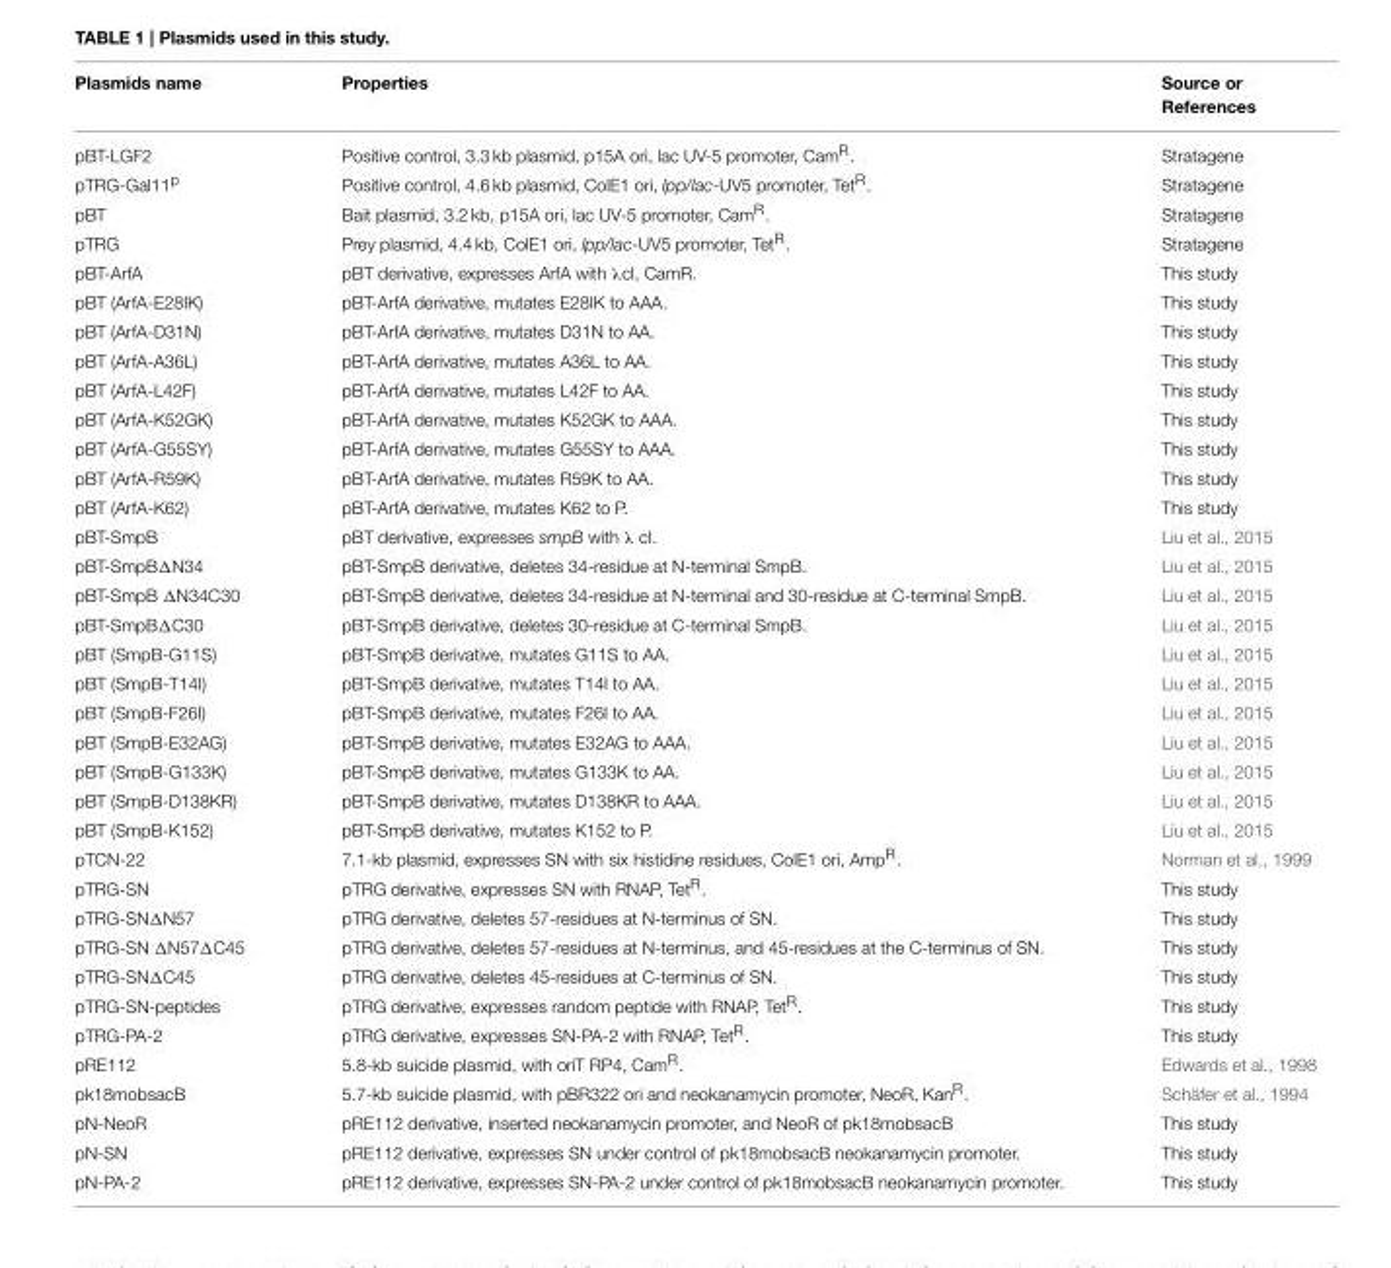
<table><thead><tr><td>Plasmids name</td><td>Properties</td><td>Source or References</td></tr></thead><tbody><tr><td>pBT-LGF2</td><td>Positive control, 3.3 kb plasmid, p15A ori, lac UV-5 promoter, Cam<sup>R</sup>.</td><td>Stratagene</td></tr><tr><td>pTRG-Gal11<sup>p</sup></td><td>Positive control, 4.6 kb plasmid, ColE1 ori, lpp/lac-UV5 promoter, Tet<sup>R</sup>.</td><td>Stratagene</td></tr><tr><td>pBT</td><td>Bait plasmid, 3.2 kb, p15A ori, lac UV-5 promoter, Cam<sup>R</sup>.</td><td>Stratagene</td></tr><tr><td>pTRG</td><td>Prey plasmid, 4.4 kb, ColE1 ori, lpp/lac-UV5 promoter, Tet<sup>R</sup>.</td><td>Stratagene</td></tr><tr><td>pBT-ArfA</td><td>pBT derivative, expresses ArfA with λcI, CamR.</td><td>This study</td></tr><tr><td>pBT (ArfA-E28IK)</td><td>pBT-ArfA derivative, mutates E28IK to AAA.</td><td>This study</td></tr><tr><td>pBT (ArfA-D31N)</td><td>pBT-ArfA derivative, mutates D31N to AA.</td><td>This study</td></tr><tr><td>pBT (ArfA-A36L)</td><td>pBT-ArfA derivative, mutates A36L to AA.</td><td>This study</td></tr><tr><td>pBT (ArfA-L42F)</td><td>pBT-ArfA derivative, mutates L42F to AA.</td><td>This study</td></tr><tr><td>pBT (ArfA-K52GK)</td><td>pBT-ArfA derivative, mutates K52GK to AAA.</td><td>This study</td></tr><tr><td>pBT (ArfA-G55SY)</td><td>pBT-ArfA derivative, mutates G55SY to AAA.</td><td>This study</td></tr><tr><td>pBT (ArfA-R59K)</td><td>pBT-ArfA derivative, mutates R59K to AA.</td><td>This study</td></tr><tr><td>pBT (ArfA-K62)</td><td>pBT-ArfA derivative, mutates K62 to P.</td><td>This study</td></tr><tr><td>pBT-SmpB</td><td>pBT derivative, expresses smpB with λ cI.</td><td>Liu et al., 2015</td></tr><tr><td>pBT-SmpBΔN34</td><td>pBT-SmpB derivative, deletes 34-residue at N-terminal SmpB.</td><td>Liu et al., 2015</td></tr><tr><td>pBT-SmpB ΔN34C30</td><td>pBT-SmpB derivative, deletes 34-residue at N-terminal and 30-residue at C-terminal SmpB.</td><td>Liu et al., 2015</td></tr><tr><td>pBT-SmpBΔC30</td><td>pBT-SmpB derivative, deletes 30-residue at C-terminal SmpB.</td><td>Liu et al., 2015</td></tr><tr><td>pBT (SmpB-G11S)</td><td>pBT-SmpB derivative, mutates G11S to AA.</td><td>Liu et al., 2015</td></tr><tr><td>pBT (SmpB-T14I)</td><td>pBT-SmpB derivative, mutates T14I to AA.</td><td>Liu et al., 2015</td></tr><tr><td>pBT (SmpB-F26I)</td><td>pBT-SmpB derivative, mutates F26I to AA.</td><td>Liu et al., 2015</td></tr><tr><td>pBT (SmpB-E32AG)</td><td>pBT-SmpB derivative, mutates E32AG to AAA.</td><td>Liu et al., 2015</td></tr><tr><td>pBT (SmpB-G133K)</td><td>pBT-SmpB derivative, mutates G133K to AA.</td><td>Liu et al., 2015</td></tr><tr><td>pBT (SmpB-D138KR)</td><td>pBT-SmpB derivative, mutates D138KR to AAA.</td><td>Liu et al., 2015</td></tr><tr><td>pBT (SmpB-K152)</td><td>pBT-SmpB derivative, mutates K152 to P.</td><td>Liu et al., 2015</td></tr><tr><td>pTCN-22</td><td>7.1-kb plasmid, expresses SN with six histidine residues, ColE1 ori, Amp<sup>R</sup>.</td><td>Norman et al., 1999</td></tr><tr><td>pTRG-SN</td><td>pTRG derivative, expresses SN with RNAP, Tet<sup>R</sup>.</td><td>This study</td></tr><tr><td>pTRG-SNΔN57</td><td>pTRG derivative, deletes 57-residues at N-terminus of SN.</td><td>This study</td></tr><tr><td>pTRG-SN ΔN57ΔC45</td><td>pTRG derivative, deletes 57-residues at N-terminus, and 45-residues at the C-terminus of SN.</td><td>This study</td></tr><tr><td>pTRG-SNΔC45</td><td>pTRG derivative, deletes 45-residues at C-terminus of SN.</td><td>This study</td></tr><tr><td>pTRG-SN-peptides</td><td>pTRG derivative, expresses random peptide with RNAP, Tet<sup>R</sup>.</td><td>This study</td></tr><tr><td>pTRG-PA-2</td><td>pTRG derivative, expresses SN-PA-2 with RNAP, Tet<sup>R</sup>.</td><td>This study</td></tr><tr><td>pRE112</td><td>5.8-kb suicide plasmid, with oriT RP4, Cam<sup>R</sup>.</td><td>Edwards et al., 1998</td></tr><tr><td>pk18mobsacB</td><td>5.7-kb suicide plasmid, with pBR322 ori and neokanamycin promoter, NeoR, Kan<sup>R</sup>.</td><td>Schäfer et al., 1994</td></tr><tr><td>pN-NeoR</td><td>pRE112 derivative, inserted neokanamycin promoter, and NeoR of pk18mobsacB</td><td>This study</td></tr><tr><td>pN-SN</td><td>pRE112 derivative, expresses SN under control of pk18mobsacB neokanamycin promoter.</td><td>This study</td></tr><tr><td>pN-PA-2</td><td>pRE112 derivative, expresses SN-PA-2 under control of pk18mobsacB neokanamycin promoter.</td><td>This study</td></tr></tbody></table>